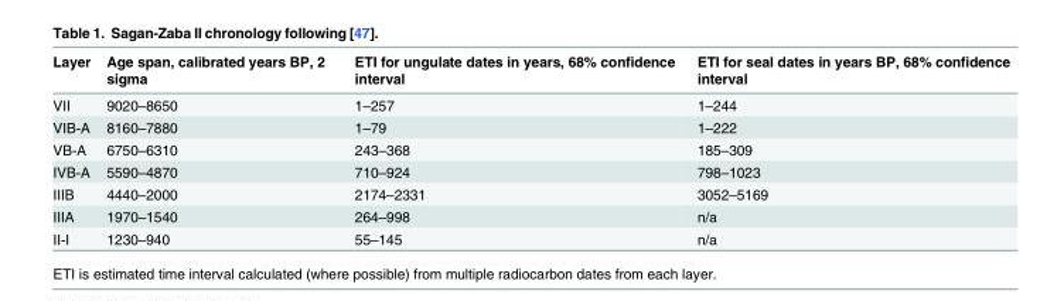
<table><thead><tr><td>Layer</td><td>Age span, calibrated years BP, 2 sigma</td><td>ETI for ungulate dates in years, 68% confidence interval</td><td>ETI for seal dates in years BP, 68% confidence interval</td></tr></thead><tbody><tr><td>VII</td><td>9020–8650</td><td>1–257</td><td>1–244</td></tr><tr><td>VIB-A</td><td>8160–7880</td><td>1–79</td><td>1–222</td></tr><tr><td>VB-A</td><td>6750–6310</td><td>243–368</td><td>185–309</td></tr><tr><td>IVB-A</td><td>5590–4870</td><td>710–924</td><td>798–1023</td></tr><tr><td>IIIB</td><td>4440–2000</td><td>2174–2331</td><td>3052–5169</td></tr><tr><td>IIIA</td><td>1970–1540</td><td>264–998</td><td>n/a</td></tr><tr><td>II-I</td><td>1230–940</td><td>55–145</td><td>n/a</td></tr></tbody></table>